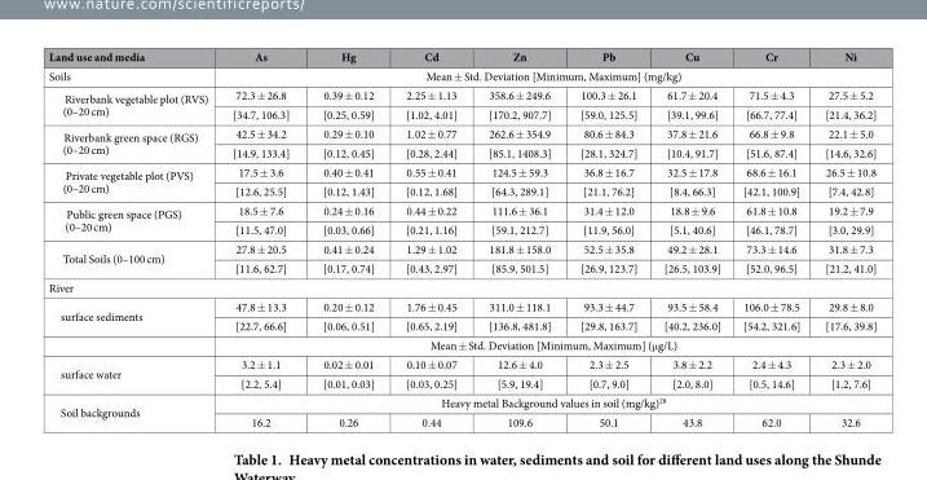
<table><thead><tr><td>Land use and media</td><td>As</td><td>Hg</td><td>Cd</td><td>Zn</td><td>Pb</td><td>Cu</td><td>Cr</td><td>Ni</td></tr></thead><tbody><tr><td>Soils</td><td colspan="8">Mean ± Std. Deviation [Minimum, Maximum] (mg/kg)</td></tr><tr><td rowspan="2">Riverbank vegetable plot (RVS) (0–20 cm)</td><td>72.3 ± 26.8</td><td>0.39 ± 0.12</td><td>2.25 ± 1.13</td><td>358.6 ± 249.6</td><td>100.3 ± 26.1</td><td>61.7 ± 20.4</td><td>71.5 ± 4.3</td><td>27.5 ± 5.2</td></tr><tr><td>[34.7, 106.3]</td><td>[0.25, 0.59]</td><td>[1.02, 4.01]</td><td>[170.2, 907.7]</td><td>[59.0, 125.5]</td><td>[39.1, 99.6]</td><td>[66.7, 77.4]</td><td>[21.4, 36.2]</td></tr><tr><td rowspan="2">Riverbank green space (RGS) (0–20 cm)</td><td>42.5 ± 34.2</td><td>0.29 ± 0.10</td><td>1.02 ± 0.77</td><td>262.6 ± 354.9</td><td>80.6 ± 84.3</td><td>37.8 ± 21.6</td><td>66.8 ± 9.8</td><td>22.1 ± 5.0</td></tr><tr><td>[14.9, 133.4]</td><td>[0.12, 0.45]</td><td>[0.28, 2.44]</td><td>[85.1, 1408.3]</td><td>[28.1, 324.7]</td><td>[10.4, 91.7]</td><td>[51.6, 87.4]</td><td>[14.6, 32.6]</td></tr><tr><td rowspan="2">Private vegetable plot (PVS) (0–20 cm)</td><td>17.5 ± 3.6</td><td>0.40 ± 0.41</td><td>0.55 ± 0.41</td><td>124.5 ± 59.3</td><td>36.8 ± 16.7</td><td>32.5 ± 17.8</td><td>68.6 ± 16.1</td><td>26.5 ± 10.8</td></tr><tr><td>[12.6, 25.5]</td><td>[0.12, 1.43]</td><td>[0.12, 1.68]</td><td>[64.3, 289.1]</td><td>[21.1, 76.2]</td><td>[8.4, 66.3]</td><td>[42.1, 100.9]</td><td>[7.4, 42.8]</td></tr><tr><td rowspan="2">Public green space (PGS) (0–20 cm)</td><td>18.5 ± 7.6</td><td>0.24 ± 0.16</td><td>0.44 ± 0.22</td><td>111.6 ± 36.1</td><td>31.4 ± 12.0</td><td>18.8 ± 9.6</td><td>61.8 ± 10.8</td><td>19.2 ± 7.9</td></tr><tr><td>[11.5, 47.0]</td><td>[0.03, 0.66]</td><td>[0.21, 1.16]</td><td>[59.1, 212.7]</td><td>[11.9, 56.0]</td><td>[5.1, 40.6]</td><td>[46.1, 78.7]</td><td>[3.0, 29.9]</td></tr><tr><td rowspan="2">Total Soils (0–100 cm)</td><td>27.8 ± 20.5</td><td>0.41 ± 0.24</td><td>1.29 ± 1.02</td><td>181.8 ± 158.0</td><td>52.5 ± 35.8</td><td>49.2 ± 28.1</td><td>73.3 ± 14.6</td><td>31.8 ± 7.3</td></tr><tr><td>[11.6, 62.7]</td><td>[0.17, 0.74]</td><td>[0.43, 2.97]</td><td>[85.9, 501.5]</td><td>[26.9, 123.7]</td><td>[26.5, 103.9]</td><td>[52.0, 96.5]</td><td>[21.2, 41.0]</td></tr><tr><td colspan="9">River</td></tr><tr><td rowspan="3">surface sediments</td><td>47.8 ± 13.3</td><td>0.20 ± 0.12</td><td>1.76 ± 0.45</td><td>311.0 ± 118.1</td><td>93.3 ± 44.7</td><td>93.5 ± 58.4</td><td>106.0 ± 78.5</td><td>29.8 ± 8.0</td></tr><tr><td>[22.7, 66.6]</td><td>[0.06, 0.51]</td><td>[0.65, 2.19]</td><td>[136.8, 481.8]</td><td>[29.8, 163.7]</td><td>[40.2, 236.0]</td><td>[54.2, 321.6]</td><td>[17.6, 39.8]</td></tr><tr><td colspan="8">Mean ± Std. Deviation [Minimum, Maximum] (μ g/L)</td></tr><tr><td rowspan="2">surface water</td><td>3.2 ± 1.1</td><td>0.02 ± 0.01</td><td>0.10 ± 0.07</td><td>12.6 ± 4.0</td><td>2.3 ± 2.5</td><td>3.8 ± 2.2</td><td>2.4 ± 4.3</td><td>2.3 ± 2.0</td></tr><tr><td>[2.2, 5.4]</td><td>[0.01, 0.03]</td><td>[0.03, 0.25]</td><td>[5.9, 19.4]</td><td>[0.7, 9.0]</td><td>[2.0, 8.0]</td><td>[0.5, 14.6]</td><td>[1.2, 7.6]</td></tr><tr><td rowspan="2">Soil backgrounds</td><td colspan="8">Heavy metal Background values in soil (mg/kg)<sup>28</sup></td></tr><tr><td>16.2</td><td>0.26</td><td>0.44</td><td>109.6</td><td>50.1</td><td>43.8</td><td>62.0</td><td>32.6</td></tr></tbody></table>